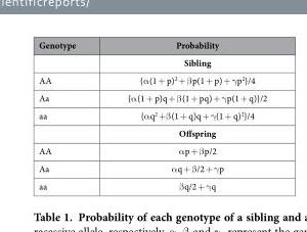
<table><thead><tr><td rowspan="2">Genotype</td><td rowspan="2">Probability Sibling</td></tr><tr></tr></thead><tbody><tr><td>AA</td><td>{α (1 + p)<sup>2</sup> + β p(1 + p) + γ p<sup>2</sup>}/4</td></tr><tr><td>Aa</td><td>{α (1 + p)q + β (1 + pq) + γ p(1 + q)}/2</td></tr><tr><td rowspan="2">aa</td><td>{α q<sup>2</sup> + β (1 + q)q + γ (1 + q)<sup>2</sup>}/4</td></tr><tr><td>Offspring</td></tr><tr><td>AA</td><td>α p + β p/2</td></tr><tr><td>Aa</td><td>α q + β /2 + γ p</td></tr><tr><td>aa</td><td>β q/2 + γ q</td></tr></tbody></table>